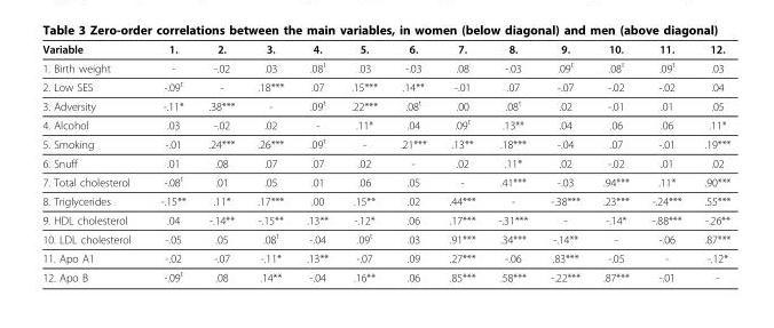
<table><thead><tr><td>Variable</td><td>1.</td><td>2.</td><td>3.</td><td>4.</td><td>5.</td><td>6.</td><td>7.</td><td>8.</td><td>9.</td><td>10.</td><td>11.</td><td>12.</td></tr></thead><tbody><tr><td>1. Birth weight</td><td>-</td><td>-.02</td><td>.03</td><td>.08<sup>t</sup></td><td>.03</td><td>-.03</td><td>.08</td><td>-.03</td><td>.09<sup>t</sup></td><td>.08<sup>t</sup></td><td>.09<sup>t</sup></td><td>.03</td></tr><tr><td>2. Low SES</td><td>-.09<sup>t</sup></td><td>-</td><td>.18***</td><td>.07</td><td>.15***</td><td>.14**</td><td>-.01</td><td>.07</td><td>-.07</td><td>-.02</td><td>-.02</td><td>.04</td></tr><tr><td>3. Adversity</td><td>-.11*</td><td>.38***</td><td>-</td><td>.09<sup>t</sup></td><td>.22***</td><td>.08<sup>t</sup></td><td>.00</td><td>.08<sup>t</sup></td><td>.02</td><td>-.01</td><td>.01</td><td>.05</td></tr><tr><td>4. Alcohol</td><td>.03</td><td>-.02</td><td>.02</td><td>-</td><td>.11*</td><td>.04</td><td>.09<sup>t</sup></td><td>.13**</td><td>.04</td><td>.06</td><td>.06</td><td>.11*</td></tr><tr><td>5. Smoking</td><td>-.01</td><td>.24***</td><td>.26***</td><td>.09<sup>t</sup></td><td>-</td><td>.21***</td><td>.13**</td><td>.18***</td><td>-.04</td><td>.07</td><td>-.01</td><td>.19***</td></tr><tr><td>6. Snuff</td><td>.01</td><td>.08</td><td>.07</td><td>.07</td><td>.02</td><td>-</td><td>.02</td><td>.11*</td><td>.02</td><td>-.02</td><td>.01</td><td>.02</td></tr><tr><td>7. Total cholesterol</td><td>-.08<sup>t</sup></td><td>.01</td><td>.05</td><td>.01</td><td>.06</td><td>.05</td><td>-</td><td>.41***</td><td>-.03</td><td>.94***</td><td>.11*</td><td>.90***</td></tr><tr><td>8. Triglycerides</td><td>-.15**</td><td>.11*</td><td>.17***</td><td>.00</td><td>.15**</td><td>.02</td><td>.44***</td><td>-</td><td>-.38***</td><td>.23***</td><td>-.24***</td><td>.55***</td></tr><tr><td>9. HDL cholesterol</td><td>.04</td><td>-.14**</td><td>-.15**</td><td>.13**</td><td>-.12*</td><td>.06</td><td>.17***</td><td>-.31***</td><td>-</td><td>-.14*</td><td>-.88***</td><td>-.26**</td></tr><tr><td>10. LDL cholesterol</td><td>-.05</td><td>.05</td><td>.08<sup>t</sup></td><td>-.04</td><td>.09<sup>t</sup></td><td>.03</td><td>.91***</td><td>.34***</td><td>-.14**</td><td>-</td><td>-.06</td><td>.87***</td></tr><tr><td>11. Apo A1</td><td>-.02</td><td>-.07</td><td>-.11*</td><td>.13**</td><td>-.07</td><td>.09</td><td>.27***</td><td>-.06</td><td>.83***</td><td>-.05</td><td>-</td><td>-.12*</td></tr><tr><td>12. Apo B</td><td>-.09<sup>t</sup></td><td>.08</td><td>.14**</td><td>-.04</td><td>.16**</td><td>.06</td><td>.85***</td><td>.58***</td><td>-.22***</td><td>.87***</td><td>-.01</td><td>-</td></tr></tbody></table>